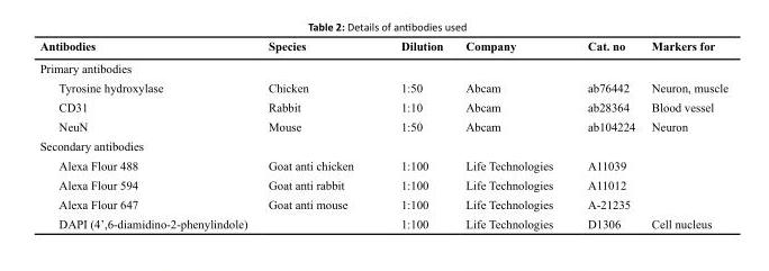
<table><thead><tr><td>Antibodies</td><td>Species</td><td>Dilution</td><td>Company</td><td>Cat. no</td><td>Markers for</td></tr></thead><tbody><tr><td colspan="6">Primary antibodies</td></tr><tr><td>Tyrosine hydroxylase</td><td>Chicken</td><td>1:50</td><td>Abcam</td><td>ab76442</td><td>Neuron, muscle</td></tr><tr><td>CD31</td><td>Rabbit</td><td>1:10</td><td>Abcam</td><td>ab28364</td><td>Blood vessel</td></tr><tr><td>NeuN</td><td>Mouse</td><td>1:50</td><td>Abcam</td><td>ab104224</td><td>Neuron</td></tr><tr><td colspan="6">Secondary antibodies</td></tr><tr><td>Alexa Flour 488</td><td>Goat anti chicken</td><td>1:100</td><td>Life Technologies</td><td>A11039</td><td></td></tr><tr><td>Alexa Flour 594</td><td>Goat anti rabbit</td><td>1:100</td><td>Life Technologies</td><td>A11012</td><td></td></tr><tr><td>Alexa Flour 647</td><td>Goat anti mouse</td><td>1:100</td><td>Life Technologies</td><td>A-21235</td><td></td></tr><tr><td>DAPI (4’,6-diamidino-2-phenylindole)</td><td></td><td>1:100</td><td>Life Technologies</td><td>D1306</td><td>Cell nucleus</td></tr></tbody></table>